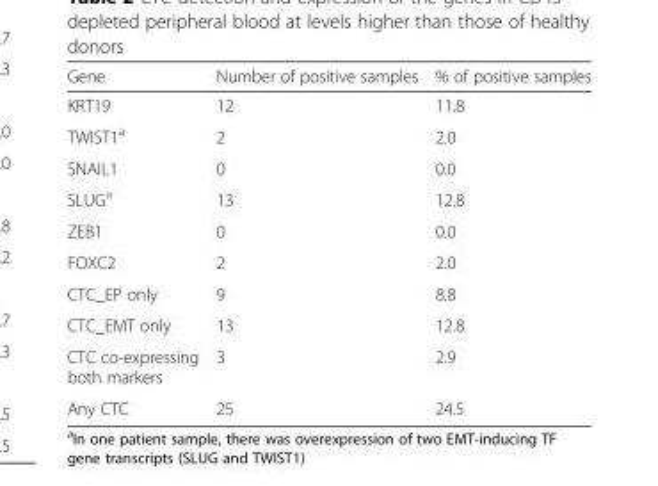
<table><thead><tr><td>Gene</td><td>Number of positive samples</td><td>% of positive samples</td></tr></thead><tbody><tr><td>KRT19</td><td>12</td><td>11.8</td></tr><tr><td>TWIST1<sup>a</sup></td><td>2</td><td>2.0</td></tr><tr><td>SNAIL1</td><td>0</td><td>0.0</td></tr><tr><td>SLUG<sup>a</sup></td><td>13</td><td>12.8</td></tr><tr><td>ZEB1</td><td>0</td><td>0.0</td></tr><tr><td>FOXC2</td><td>2</td><td>2.0</td></tr><tr><td>CTC_EP only</td><td>9</td><td>8.8</td></tr><tr><td>CTC_EMT only</td><td>13</td><td>12.8</td></tr><tr><td>CTC co-expressing both markers</td><td>3</td><td>2.9</td></tr><tr><td>Any CTC</td><td>25</td><td>24.5</td></tr></tbody></table>